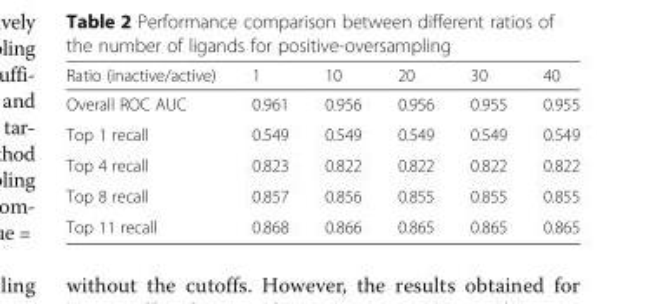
<table><thead><tr><td>Ratio (inactive/active)</td><td>1</td><td>10</td><td>20</td><td>30</td><td>40</td></tr></thead><tbody><tr><td>Overall ROC AUC</td><td>0.961</td><td>0.956</td><td>0.956</td><td>0.955</td><td>0.955</td></tr><tr><td>Top 1 recall</td><td>0.549</td><td>0.549</td><td>0.549</td><td>0.549</td><td>0.549</td></tr><tr><td>Top 4 recall</td><td>0.823</td><td>0.822</td><td>0.822</td><td>0.822</td><td>0.822</td></tr><tr><td>Top 8 recall</td><td>0.857</td><td>0.856</td><td>0.855</td><td>0.855</td><td>0.855</td></tr><tr><td>Top 11 recall</td><td>0.868</td><td>0.866</td><td>0.865</td><td>0.865</td><td>0.865</td></tr></tbody></table>